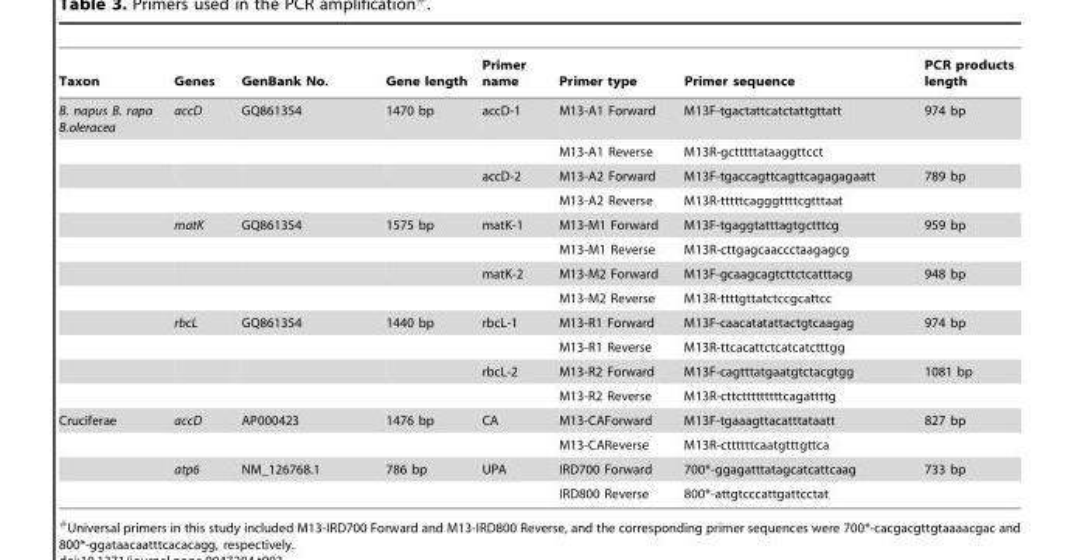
<table><thead><tr><td>Taxon</td><td>Genes</td><td>GenBank No.</td><td>Gene length</td><td>Primer name</td><td>Primer type</td><td>Primer sequence</td><td>PCR products length</td></tr></thead><tbody><tr><td rowspan="12">B. napus B. rapa B.oleracea</td><td>accD</td><td>GQ861354</td><td>1470 bp</td><td>accD-1</td><td>M13-A1 Forward</td><td>M13F-tgactattcatctattgttatt</td><td>974 bp</td></tr><tr><td></td><td></td><td></td><td></td><td>M13-A1 Reverse</td><td>M13R-gctttttataaggttcct</td><td></td></tr><tr><td></td><td></td><td></td><td>accD-2</td><td>M13-A2 Forward</td><td>M13F-tgaccagttcagttcagagagaatt</td><td>789 bp</td></tr><tr><td></td><td></td><td></td><td></td><td>M13-A2 Reverse</td><td>M13R-tttttcagggttttcgtttaat</td><td></td></tr><tr><td>matK</td><td>GQ861354</td><td>1575 bp</td><td>matK-1</td><td>M13-M1 Forward</td><td>M13F-tgaggtatttagtgctttcg</td><td>959 bp</td></tr><tr><td></td><td></td><td></td><td></td><td>M13-M1 Reverse</td><td>M13R-cttgagcaaccctaagagcg</td><td></td></tr><tr><td></td><td></td><td></td><td>matK-2</td><td>M13-M2 Forward</td><td>M13F-gcaagcagtcttctcatttacg</td><td>948 bp</td></tr><tr><td></td><td></td><td></td><td></td><td>M13-M2 Reverse</td><td>M13R-ttttgttatctccgcattcc</td><td></td></tr><tr><td>rbcL</td><td>GQ861354</td><td>1440 bp</td><td>rbcL-1</td><td>M13-R1 Forward</td><td>M13F-caacatatattactgtcaagag</td><td>974 bp</td></tr><tr><td></td><td></td><td></td><td></td><td>M13-R1 Reverse</td><td>M13R-ttcacattctcatcatctttgg</td><td></td></tr><tr><td></td><td></td><td></td><td>rbcL-2</td><td>M13-R2 Forward</td><td>M13F-cagtttatgaatgtctacgtgg</td><td>1081 bp</td></tr><tr><td></td><td></td><td></td><td></td><td>M13-R2 Reverse</td><td>M13R-cttctttttttttcagattttg</td><td></td></tr><tr><td rowspan="4">Cruciferae</td><td>accD</td><td>AP000423</td><td>1476 bp</td><td>CA</td><td>M13-CAForward</td><td>M13F-tgaaagttacatttataatt</td><td>827 bp</td></tr><tr><td></td><td></td><td></td><td></td><td>M13-CAReverse</td><td>M13R-cttttttcaatgtttgttca</td><td></td></tr><tr><td>atp6</td><td>NM_126768.1</td><td>786 bp</td><td>UPA</td><td>IRD700 Forward</td><td>700*-ggagatttatagcatcattcaag</td><td>733 bp</td></tr><tr><td></td><td></td><td></td><td></td><td>IRD800 Reverse</td><td>800*-attgtcccattgattcctat</td><td></td></tr></tbody></table>